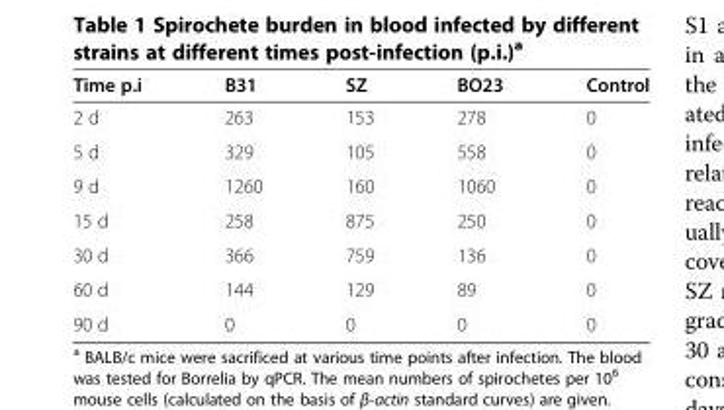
<table><thead><tr><td>Time p.i</td><td>B31</td><td>SZ</td><td>BO23</td><td>Control</td></tr></thead><tbody><tr><td>2 d</td><td>263</td><td>153</td><td>278</td><td>0</td></tr><tr><td>5 d</td><td>329</td><td>105</td><td>558</td><td>0</td></tr><tr><td>9 d</td><td>1260</td><td>160</td><td>1060</td><td>0</td></tr><tr><td>15 d</td><td>258</td><td>875</td><td>250</td><td>0</td></tr><tr><td>30 d</td><td>366</td><td>759</td><td>136</td><td>0</td></tr><tr><td>60 d</td><td>144</td><td>129</td><td>89</td><td>0</td></tr><tr><td>90 d</td><td>0</td><td>0</td><td>0</td><td>0</td></tr></tbody></table>